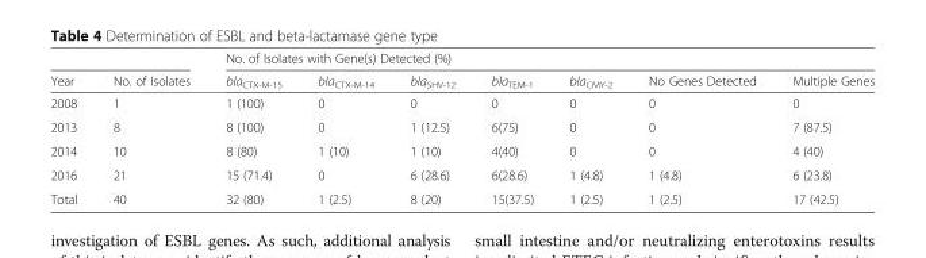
<table><thead><tr><td rowspan="2">Year</td><td rowspan="2">No. of Isolates</td><td colspan="7">No. of Isolates with Gene(s) Detected (%)</td></tr><tr><td>bla<sub>CTX-M-15</sub></td><td>bla<sub>CTX-M-14</sub></td><td>bla<sub>SHV-12</sub></td><td>bla<sub>TEM-1</sub></td><td>bla<sub>CMY-2</sub></td><td>No Genes Detected</td><td>Multiple Genes</td></tr></thead><tbody><tr><td>2008</td><td>1</td><td>1 (100)</td><td>0</td><td>0</td><td>0</td><td>0</td><td>0</td><td>0</td></tr><tr><td>2013</td><td>8</td><td>8 (100)</td><td>0</td><td>1 (12.5)</td><td>6(75)</td><td>0</td><td>0</td><td>7 (87.5)</td></tr><tr><td>2014</td><td>10</td><td>8 (80)</td><td>1 (10)</td><td>1 (10)</td><td>4(40)</td><td>0</td><td>0</td><td>4 (40)</td></tr><tr><td>2016</td><td>21</td><td>15 (71.4)</td><td>0</td><td>6 (28.6)</td><td>6(28.6)</td><td>1 (4.8)</td><td>1 (4.8)</td><td>6 (23.8)</td></tr><tr><td>Total</td><td>40</td><td>32 (80)</td><td>1 (2.5)</td><td>8 (20)</td><td>15(37.5)</td><td>1 (2.5)</td><td>1 (2.5)</td><td>17 (42.5)</td></tr></tbody></table>